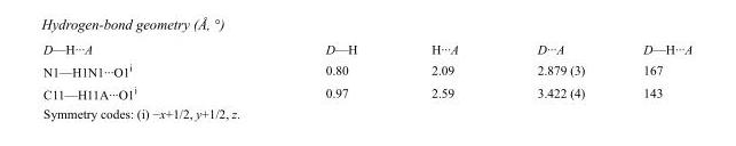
<table><tbody><tr><td>D—H···A</td><td>D—H</td><td>H···A</td><td>D···A</td><td>D—H···A</td></tr><tr><td>N1—H1N1···O1<sup>i</sup></td><td>0.80</td><td>2.09</td><td>2.879 (3)</td><td>167</td></tr><tr><td>C11—H11A···O1<sup>i</sup></td><td>0.97</td><td>2.59</td><td>3.422 (4)</td><td>143</td></tr></tbody></table>